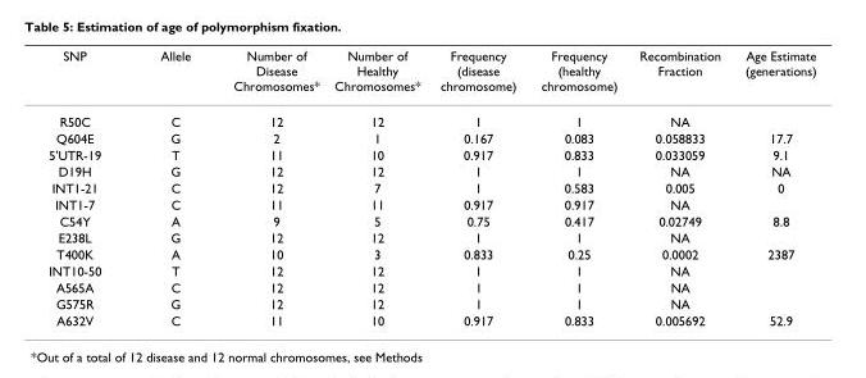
<table><thead><tr><td>SNP</td><td>Allele</td><td>Number of Disease Chromosomes*</td><td>Number of Healthy Chromosomes*</td><td>Frequency (disease chromosome)</td><td>Frequency (healthy chromosome)</td><td>Recombination Fraction</td><td>Age Estimate (generations)</td></tr></thead><tbody><tr><td>R50C</td><td>C</td><td>12</td><td>12</td><td>1</td><td>1</td><td>NA</td><td></td></tr><tr><td>Q604E</td><td>G</td><td>2</td><td>1</td><td>0.167</td><td>0.083</td><td>0.058833</td><td>17.7</td></tr><tr><td>5&#x27;UTR-19</td><td>T</td><td>11</td><td>10</td><td>0.917</td><td>0.833</td><td>0.033059</td><td>9.1</td></tr><tr><td>D19H</td><td>G</td><td>12</td><td>12</td><td>1</td><td>1</td><td>NA</td><td>NA</td></tr><tr><td>INT1-21</td><td>C</td><td>12</td><td>7</td><td>1</td><td>0.583</td><td>0.005</td><td>0</td></tr><tr><td>INT1-7</td><td>C</td><td>11</td><td>11</td><td>0.917</td><td>0.917</td><td>NA</td><td></td></tr><tr><td>C54Y</td><td>A</td><td>9</td><td>5</td><td>0.75</td><td>0.417</td><td>0.02749</td><td>8.8</td></tr><tr><td>E238L</td><td>G</td><td>12</td><td>12</td><td>1</td><td>1</td><td>NA</td><td></td></tr><tr><td>T400K</td><td>A</td><td>10</td><td>3</td><td>0.833</td><td>0.25</td><td>0.0002</td><td>2387</td></tr><tr><td>INT10-50</td><td>T</td><td>12</td><td>12</td><td>1</td><td>1</td><td>NA</td><td></td></tr><tr><td>A565A</td><td>C</td><td>12</td><td>12</td><td>1</td><td>1</td><td>NA</td><td></td></tr><tr><td>G575R</td><td>G</td><td>12</td><td>12</td><td>1</td><td>1</td><td>NA</td><td></td></tr><tr><td>A632V</td><td>C</td><td>11</td><td>10</td><td>0.917</td><td>0.833</td><td>0.005692</td><td>52.9</td></tr></tbody></table>